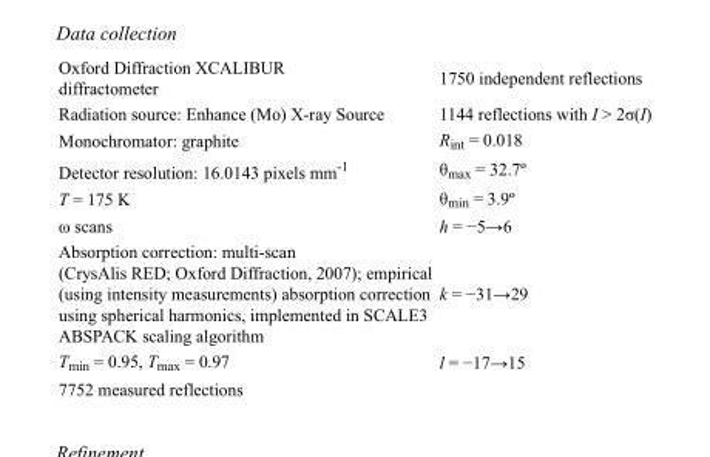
<table><tbody><tr><td>Oxford Diffraction XCALIBUR diffractometer</td><td>1750 independent reflections</td></tr><tr><td>Radiation source: Enhance (Mo) X-ray Source</td><td>1144 reflections with I &gt; 2σ(I)</td></tr><tr><td>Monochromator: graphite</td><td>R<sub>int</sub> = 0.018</td></tr><tr><td>Detector resolution: 16.0143 pixels mm<sup>-1</sup></td><td>θ<sub>max</sub> = 32.7º</td></tr><tr><td>T = 175 K</td><td>θ<sub>min</sub> = 3.9º</td></tr><tr><td>ω scans</td><td>h = −5→6</td></tr><tr><td>Absorption correction: multi-scan (CrysAlis RED; Oxford Diffraction, 2007); empirical (using intensity measurements) absorption correction using spherical harmonics, implemented in SCALE3 ABSPACK scaling algorithm</td><td>k = −31→29</td></tr><tr><td>T<sub>min</sub> = 0.95, T<sub>max</sub> = 0.97</td><td>l = −17→15</td></tr><tr><td>7752 measured reflections</td><td></td></tr></tbody></table>